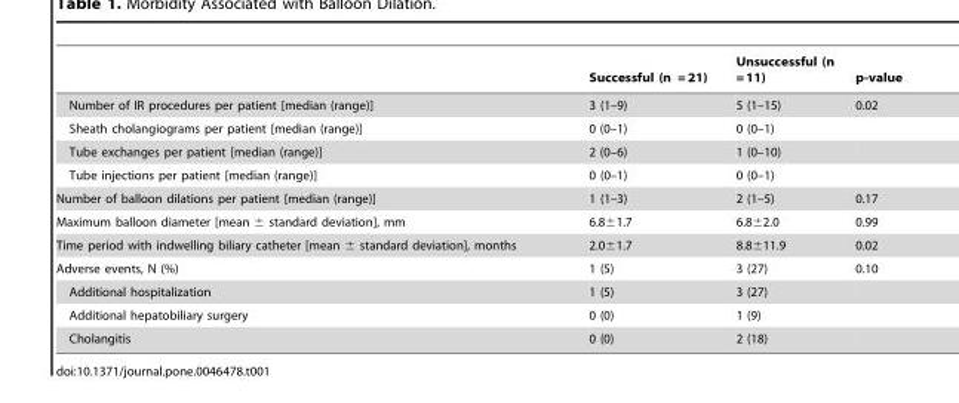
<table><thead><tr><td></td><td>Successful (n = 21)</td><td>Unsuccessful (n = 11)</td><td>p-value</td></tr></thead><tbody><tr><td>Number of IR procedures per patient [median (range)]</td><td>3 (1–9)</td><td>5 (1–15)</td><td>0.02</td></tr><tr><td>Sheath cholangiograms per patient [median (range)]</td><td>0 (0–1)</td><td>0 (0–1)</td><td></td></tr><tr><td>Tube exchanges per patient [median (range)]</td><td>2 (0–6)</td><td>1 (0–10)</td><td></td></tr><tr><td>Tube injections per patient [median (range)]</td><td>0 (0–1)</td><td>0 (0–1)</td><td></td></tr><tr><td>Number of balloon dilations per patient [median (range)]</td><td>1 (1–3)</td><td>2 (1–5)</td><td>0.17</td></tr><tr><td>Maximum balloon diameter [mean ± standard deviation], mm</td><td>6.8±1.7</td><td>6.8±2.0</td><td>0.99</td></tr><tr><td>Time period with indwelling biliary catheter [mean ± standard deviation], months</td><td>2.0±1.7</td><td>8.8±11.9</td><td>0.02</td></tr><tr><td>Adverse events, N (%)</td><td>1 (5)</td><td>3 (27)</td><td>0.10</td></tr><tr><td>Additional hospitalization</td><td>1 (5)</td><td>3 (27)</td><td></td></tr><tr><td>Additional hepatobiliary surgery</td><td>0 (0)</td><td>1 (9)</td><td></td></tr><tr><td>Cholangitis</td><td>0 (0)</td><td>2 (18)</td><td></td></tr></tbody></table>